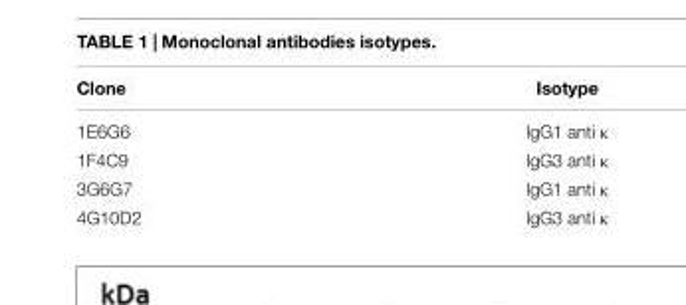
<table><thead><tr><td>Clone</td><td>Isotype</td></tr></thead><tbody><tr><td>1E6G6</td><td>IgG1 anti κ</td></tr><tr><td>1F4C9</td><td>IgG3 anti κ</td></tr><tr><td>3G6G7</td><td>IgG1 anti κ</td></tr><tr><td>4G10D2</td><td>IgG3 anti κ</td></tr></tbody></table>